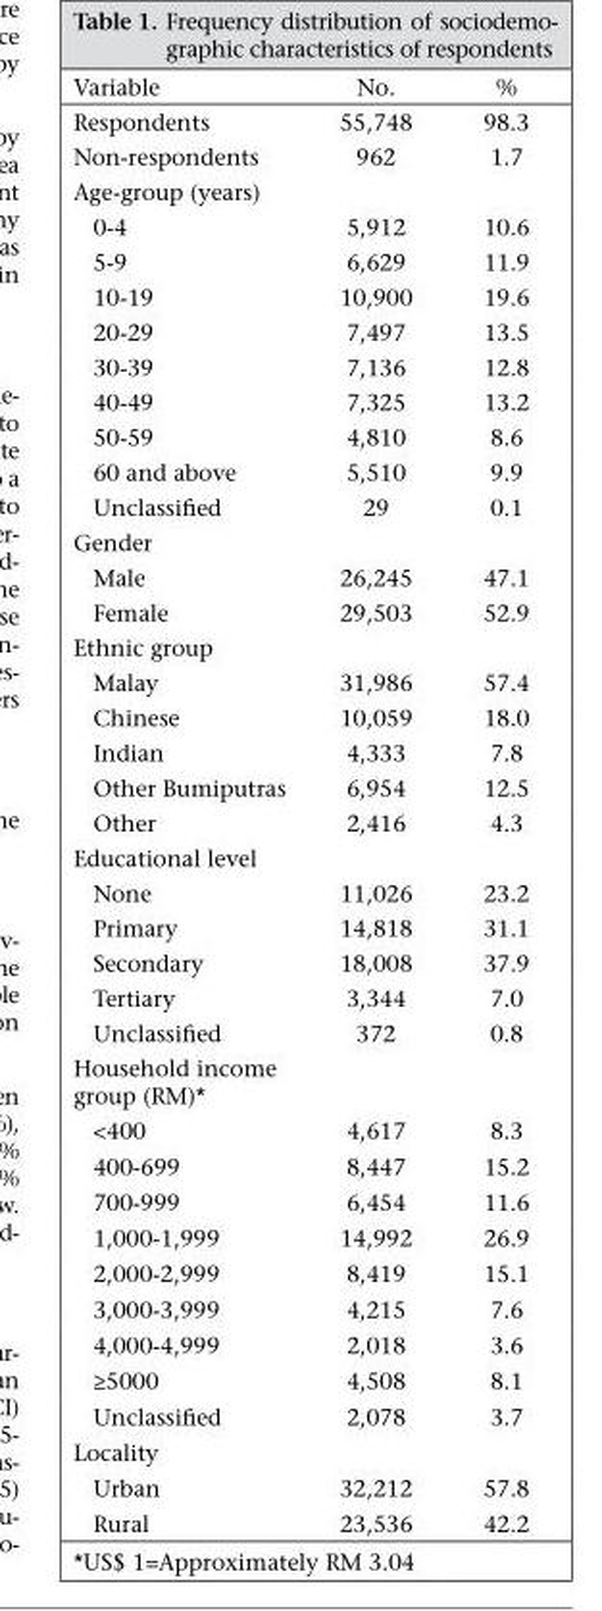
<table><thead><tr><td>Variable</td><td>No.</td><td>%</td></tr></thead><tbody><tr><td>Respondents</td><td>55,748</td><td>98.3</td></tr><tr><td>Non-respondents</td><td>962</td><td>1.7</td></tr><tr><td colspan="3">Age-group (years)</td></tr><tr><td>0-4</td><td>5,912</td><td>10.6</td></tr><tr><td>5-9</td><td>6,629</td><td>11.9</td></tr><tr><td>10-19</td><td>10,900</td><td>19.6</td></tr><tr><td>20-29</td><td>7,497</td><td>13.5</td></tr><tr><td>30-39</td><td>7,136</td><td>12.8</td></tr><tr><td>40-49</td><td>7,325</td><td>13.2</td></tr><tr><td>50-59</td><td>4,810</td><td>8.6</td></tr><tr><td>60 and above</td><td>5,510</td><td>9.9</td></tr><tr><td>Unclassified</td><td>29</td><td>0.1</td></tr><tr><td colspan="3">Gender</td></tr><tr><td>Male</td><td>26,245</td><td>47.1</td></tr><tr><td>Female</td><td>29,503</td><td>52.9</td></tr><tr><td colspan="3">Ethnic group</td></tr><tr><td>Malay</td><td>31,986</td><td>57.4</td></tr><tr><td>Chinese</td><td>10,059</td><td>18.0</td></tr><tr><td>Indian</td><td>4,333</td><td>7.8</td></tr><tr><td>Other Bumiputras</td><td>6,954</td><td>12.5</td></tr><tr><td>Other</td><td>2,416</td><td>4.3</td></tr><tr><td colspan="3">Educational level</td></tr><tr><td>None</td><td>11,026</td><td>23.2</td></tr><tr><td>Primary</td><td>14,818</td><td>31.1</td></tr><tr><td>Secondary</td><td>18,008</td><td>37.9</td></tr><tr><td>Tertiary</td><td>3,344</td><td>7.0</td></tr><tr><td>Unclassified</td><td>372</td><td>0.8</td></tr><tr><td colspan="3">Household income group (RM)*</td></tr><tr><td>&lt;400</td><td>4,617</td><td>8.3</td></tr><tr><td>400-699</td><td>8,447</td><td>15.2</td></tr><tr><td>700-999</td><td>6,454</td><td>11.6</td></tr><tr><td>1,000-1,999</td><td>14,992</td><td>26.9</td></tr><tr><td>2,000-2,999</td><td>8,419</td><td>15.1</td></tr><tr><td>3,000-3,999</td><td>4,215</td><td>7.6</td></tr><tr><td>4,000-4,999</td><td>2,018</td><td>3.6</td></tr><tr><td>≥5000</td><td>4,508</td><td>8.1</td></tr><tr><td>Unclassified</td><td>2,078</td><td>3.7</td></tr><tr><td colspan="3">Locality</td></tr><tr><td>Urban</td><td>32,212</td><td>57.8</td></tr><tr><td>Rural</td><td>23,536</td><td>42.2</td></tr></tbody></table>